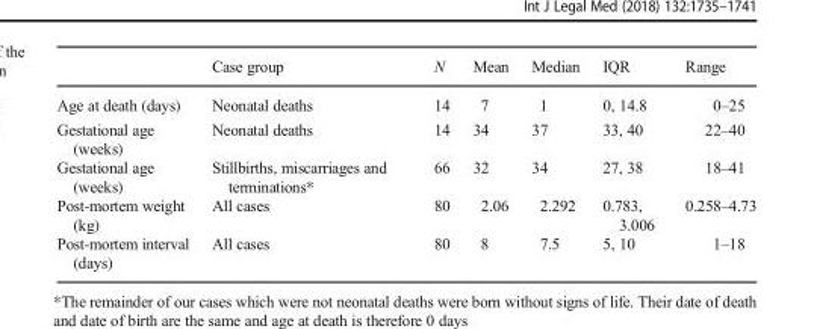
<table><thead><tr><td></td><td>Case group</td><td>N</td><td>Mean</td><td>Median</td><td>IQR</td><td>Range</td></tr></thead><tbody><tr><td>Age at death (days)</td><td>Neonatal deaths</td><td>14</td><td>7</td><td>1</td><td>0, 14.8</td><td>0–25</td></tr><tr><td>Gestational age (weeks)</td><td>Neonatal deaths</td><td>14</td><td>34</td><td>37</td><td>33, 40</td><td>22–40</td></tr><tr><td>Gestational age (weeks)</td><td>Stillbirths, miscarriages and terminations*</td><td>66</td><td>32</td><td>34</td><td>27, 38</td><td>18–41</td></tr><tr><td>Post-mortem weight (kg)</td><td>All cases</td><td>80</td><td>2.06</td><td>2.292</td><td>0.783, 3.006</td><td>0.258–4.73</td></tr><tr><td>Post-mortem interval (days)</td><td>All cases</td><td>80</td><td>8</td><td>7.5</td><td>5, 10</td><td>1–18</td></tr></tbody></table>